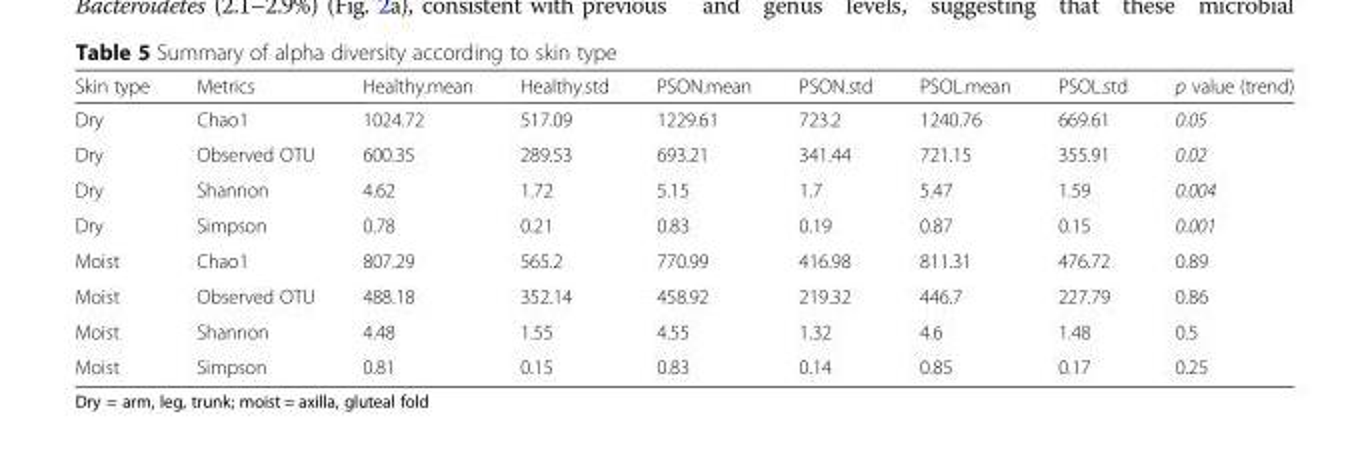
<table><thead><tr><td>Skin type</td><td>Metrics</td><td>Healthy.mean</td><td>Healthy.std</td><td>PSON.mean</td><td>PSON.std</td><td>PSOL.mean</td><td>PSOL.std</td><td>p value (trend)</td></tr></thead><tbody><tr><td>Dry</td><td>Chao1</td><td>1024.72</td><td>517.09</td><td>1229.61</td><td>723.2</td><td>1240.76</td><td>669.61</td><td>0.05</td></tr><tr><td>Dry</td><td>Observed OTU</td><td>600.35</td><td>289.53</td><td>693.21</td><td>341.44</td><td>721.15</td><td>355.91</td><td>0.02</td></tr><tr><td>Dry</td><td>Shannon</td><td>4.62</td><td>1.72</td><td>5.15</td><td>1.7</td><td>5.47</td><td>1.59</td><td>0.004</td></tr><tr><td>Dry</td><td>Simpson</td><td>0.78</td><td>0.21</td><td>0.83</td><td>0.19</td><td>0.87</td><td>0.15</td><td>0.001</td></tr><tr><td>Moist</td><td>Chao1</td><td>807.29</td><td>565.2</td><td>770.99</td><td>416.98</td><td>811.31</td><td>476.72</td><td>0.89</td></tr><tr><td>Moist</td><td>Observed OTU</td><td>488.18</td><td>352.14</td><td>458.92</td><td>219.32</td><td>446.7</td><td>227.79</td><td>0.86</td></tr><tr><td>Moist</td><td>Shannon</td><td>4.48</td><td>1.55</td><td>4.55</td><td>1.32</td><td>4.6</td><td>1.48</td><td>0.5</td></tr><tr><td>Moist</td><td>Simpson</td><td>0.81</td><td>0.15</td><td>0.83</td><td>0.14</td><td>0.85</td><td>0.17</td><td>0.25</td></tr></tbody></table>